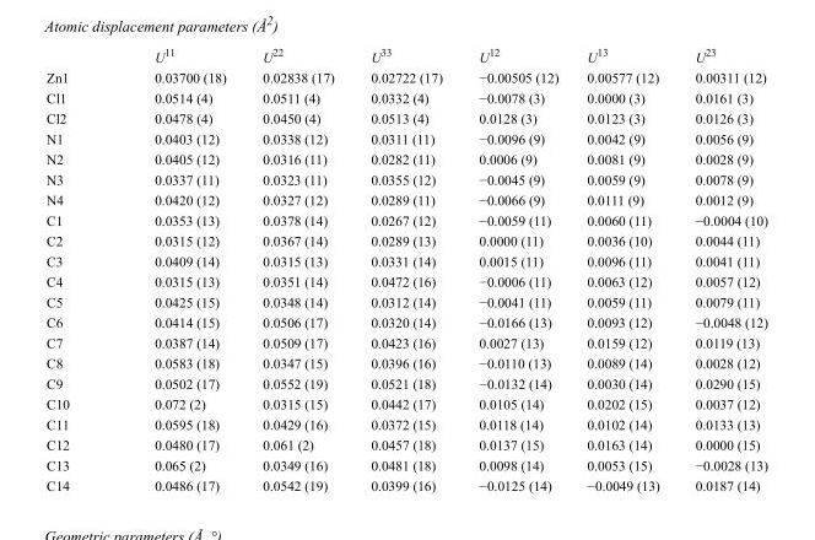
<table><thead><tr><td></td><td>U<sup>11</sup></td><td>U<sup>22</sup></td><td>U<sup>33</sup></td><td>U<sup>12</sup></td><td>U<sup>13</sup></td><td>U<sup>23</sup></td></tr></thead><tbody><tr><td>Zn1</td><td>0.03700 (18)</td><td>0.02838 (17)</td><td>0.02722 (17)</td><td>−0.00505 (12)</td><td>0.00577 (12)</td><td>0.00311 (12)</td></tr><tr><td>Cl1</td><td>0.0514 (4)</td><td>0.0511 (4)</td><td>0.0332 (4)</td><td>−0.0078 (3)</td><td>0.0000 (3)</td><td>0.0161 (3)</td></tr><tr><td>Cl2</td><td>0.0478 (4)</td><td>0.0450 (4)</td><td>0.0513 (4)</td><td>0.0128 (3)</td><td>0.0123 (3)</td><td>0.0126 (3)</td></tr><tr><td>N1</td><td>0.0403 (12)</td><td>0.0338 (12)</td><td>0.0311 (11)</td><td>−0.0096 (9)</td><td>0.0042 (9)</td><td>0.0056 (9)</td></tr><tr><td>N2</td><td>0.0405 (12)</td><td>0.0316 (11)</td><td>0.0282 (11)</td><td>0.0006 (9)</td><td>0.0081 (9)</td><td>0.0028 (9)</td></tr><tr><td>N3</td><td>0.0337 (11)</td><td>0.0323 (11)</td><td>0.0355 (12)</td><td>−0.0045 (9)</td><td>0.0059 (9)</td><td>0.0078 (9)</td></tr><tr><td>N4</td><td>0.0420 (12)</td><td>0.0327 (12)</td><td>0.0289 (11)</td><td>−0.0066 (9)</td><td>0.0111 (9)</td><td>0.0012 (9)</td></tr><tr><td>C1</td><td>0.0353 (13)</td><td>0.0378 (14)</td><td>0.0267 (12)</td><td>−0.0059 (11)</td><td>0.0060 (11)</td><td>−0.0004 (10)</td></tr><tr><td>C2</td><td>0.0315 (12)</td><td>0.0367 (14)</td><td>0.0289 (13)</td><td>0.0000 (11)</td><td>0.0036 (10)</td><td>0.0044 (11)</td></tr><tr><td>C3</td><td>0.0409 (14)</td><td>0.0315 (13)</td><td>0.0331 (14)</td><td>0.0015 (11)</td><td>0.0096 (11)</td><td>0.0041 (11)</td></tr><tr><td>C4</td><td>0.0315 (13)</td><td>0.0351 (14)</td><td>0.0472 (16)</td><td>−0.0006 (11)</td><td>0.0063 (12)</td><td>0.0057 (12)</td></tr><tr><td>C5</td><td>0.0425 (15)</td><td>0.0348 (14)</td><td>0.0312 (14)</td><td>−0.0041 (11)</td><td>0.0059 (11)</td><td>0.0079 (11)</td></tr><tr><td>C6</td><td>0.0414 (15)</td><td>0.0506 (17)</td><td>0.0320 (14)</td><td>−0.0166 (13)</td><td>0.0093 (12)</td><td>−0.0048 (12)</td></tr><tr><td>C7</td><td>0.0387 (14)</td><td>0.0509 (17)</td><td>0.0423 (16)</td><td>0.0027 (13)</td><td>0.0159 (12)</td><td>0.0119 (13)</td></tr><tr><td>C8</td><td>0.0583 (18)</td><td>0.0347 (15)</td><td>0.0396 (16)</td><td>−0.0110 (13)</td><td>0.0089 (14)</td><td>0.0028 (12)</td></tr><tr><td>C9</td><td>0.0502 (17)</td><td>0.0552 (19)</td><td>0.0521 (18)</td><td>−0.0132 (14)</td><td>0.0030 (14)</td><td>0.0290 (15)</td></tr><tr><td>C10</td><td>0.072 (2)</td><td>0.0315 (15)</td><td>0.0442 (17)</td><td>0.0105 (14)</td><td>0.0202 (15)</td><td>0.0037 (12)</td></tr><tr><td>C11</td><td>0.0595 (18)</td><td>0.0429 (16)</td><td>0.0372 (15)</td><td>0.0118 (14)</td><td>0.0102 (14)</td><td>0.0133 (13)</td></tr><tr><td>C12</td><td>0.0480 (17)</td><td>0.061 (2)</td><td>0.0457 (18)</td><td>0.0137 (15)</td><td>0.0163 (14)</td><td>0.0000 (15)</td></tr><tr><td>C13</td><td>0.065 (2)</td><td>0.0349 (16)</td><td>0.0481 (18)</td><td>0.0098 (14)</td><td>0.0053 (15)</td><td>−0.0028 (13)</td></tr><tr><td>C14</td><td>0.0486 (17)</td><td>0.0542 (19)</td><td>0.0399 (16)</td><td>−0.0125 (14)</td><td>−0.0049 (13)</td><td>0.0187 (14)</td></tr></tbody></table>